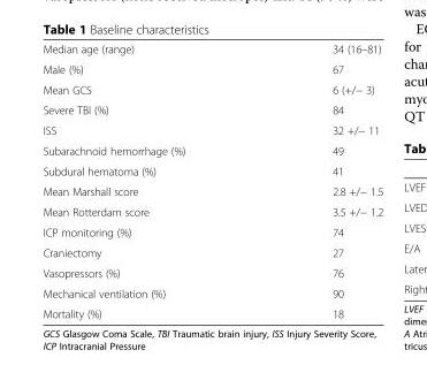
<table><tbody><tr><td>Median age (range)</td><td>34 (16–81)</td></tr><tr><td>Male (%)</td><td>67</td></tr><tr><td>Mean GCS</td><td>6 (+/− 3)</td></tr><tr><td>Severe TBI (%)</td><td>84</td></tr><tr><td>ISS</td><td>32 +/− 11</td></tr><tr><td>Subarachnoid hemorrhage (%)</td><td>49</td></tr><tr><td>Subdural hematoma (%)</td><td>41</td></tr><tr><td>Mean Marshall score</td><td>2.8 +/− 1.5</td></tr><tr><td>Mean Rotterdam score</td><td>3.5 +/− 1.2</td></tr><tr><td>ICP monitoring (%)</td><td>74</td></tr><tr><td>Craniectomy</td><td>27</td></tr><tr><td>Vasopressors (%)</td><td>76</td></tr><tr><td>Mechanical ventilation (%)</td><td>90</td></tr><tr><td>Mortality (%)</td><td>18</td></tr></tbody></table>